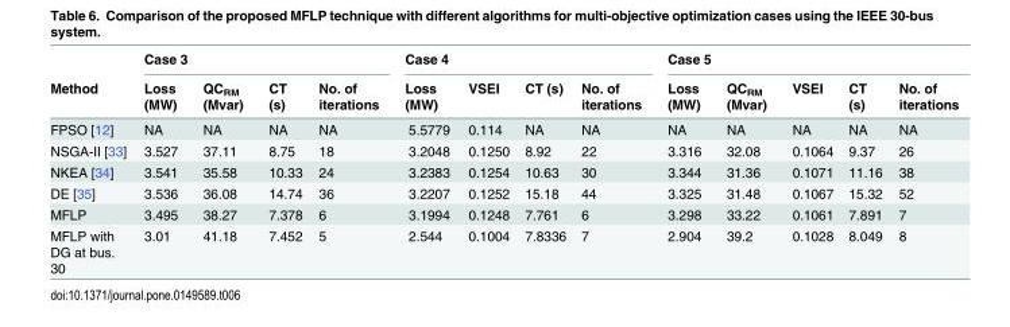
<table><thead><tr><td rowspan="2">Method</td><td colspan="4">Case 3</td><td colspan="4">Case 4</td><td colspan="5">Case 5</td></tr><tr><td>Loss (MW)</td><td>QC<sub>RM</sub> (Mvar)</td><td>CT (s)</td><td>No. of iterations</td><td>Loss (MW)</td><td>VSEI</td><td>CT (s)</td><td>No. of iterations</td><td>Loss (MW)</td><td>QC<sub>RM</sub> (Mvar)</td><td>VSEI</td><td>CT (s)</td><td>No. of iterations</td></tr></thead><tbody><tr><td>FPSO [12]</td><td>NA</td><td>NA</td><td>NA</td><td>NA</td><td>5.5779</td><td>0.114</td><td>NA</td><td>NA</td><td>NA</td><td>NA</td><td>NA</td><td>NA</td><td>NA</td></tr><tr><td>NSGA-II [33]</td><td>3.527</td><td>37.11</td><td>8.75</td><td>18</td><td>3.2048</td><td>0.1250</td><td>8.92</td><td>22</td><td>3.316</td><td>32.08</td><td>0.1064</td><td>9.37</td><td>26</td></tr><tr><td>NKEA [34]</td><td>3.541</td><td>35.58</td><td>10.33</td><td>24</td><td>3.2383</td><td>0.1254</td><td>10.63</td><td>30</td><td>3.344</td><td>31.36</td><td>0.1071</td><td>11.16</td><td>38</td></tr><tr><td>DE [35]</td><td>3.536</td><td>36.08</td><td>14.74</td><td>36</td><td>3.2207</td><td>0.1252</td><td>15.18</td><td>44</td><td>3.325</td><td>31.48</td><td>0.1067</td><td>15.32</td><td>52</td></tr><tr><td>MFLP</td><td>3.495</td><td>38.27</td><td>7.378</td><td>6</td><td>3.1994</td><td>0.1248</td><td>7.761</td><td>6</td><td>3.298</td><td>33.22</td><td>0.1061</td><td>7.891</td><td>7</td></tr><tr><td>MFLP with DG at bus. 30</td><td>3.01</td><td>41.18</td><td>7.452</td><td>5</td><td>2.544</td><td>0.1004</td><td>7.8336</td><td>7</td><td>2.904</td><td>39.2</td><td>0.1028</td><td>8.049</td><td>8</td></tr></tbody></table>